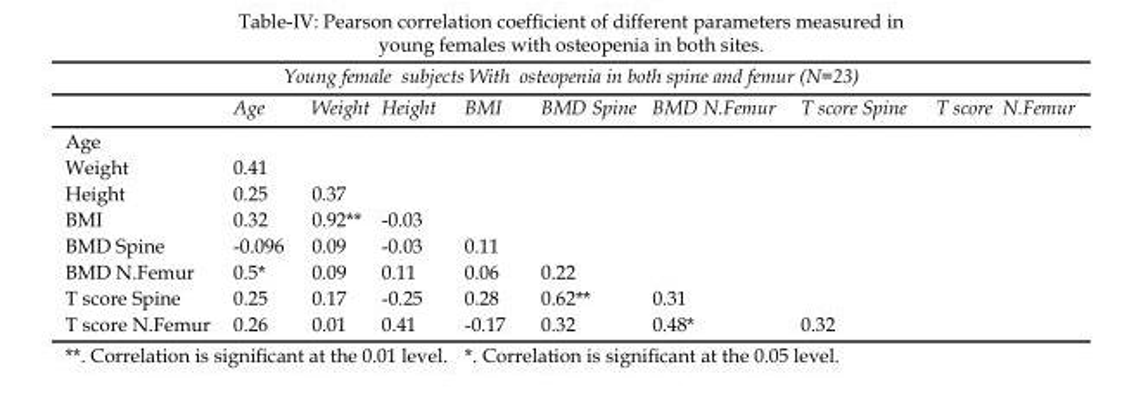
<table><thead><tr><td colspan="9">Young female subjects With osteopenia in both spine and femur (N=23)</td></tr><tr><td></td><td>Age</td><td>Weight</td><td>Height</td><td>BMI</td><td>BMD Spine</td><td>BMD N.Femur</td><td>T score Spine</td><td>T score N.Femur</td></tr></thead><tbody><tr><td colspan="9">Age</td></tr><tr><td>Weight</td><td>0.41</td><td></td><td></td><td></td><td></td><td></td><td></td><td></td></tr><tr><td>Height</td><td>0.25</td><td>0.37</td><td></td><td></td><td></td><td></td><td></td><td></td></tr><tr><td>BMI</td><td>0.32</td><td>0.92**</td><td>-0.03</td><td></td><td></td><td></td><td></td><td></td></tr><tr><td>BMD Spine</td><td>-0.096</td><td>0.09</td><td>-0.03</td><td>0.11</td><td></td><td></td><td></td><td></td></tr><tr><td>BMD N.Femur</td><td>0.5*</td><td>0.09</td><td>0.11</td><td>0.06</td><td>0.22</td><td></td><td></td><td></td></tr><tr><td>T score Spine</td><td>0.25</td><td>0.17</td><td>-0.25</td><td>0.28</td><td>0.62**</td><td>0.31</td><td></td><td></td></tr><tr><td>T score N.Femur</td><td>0.26</td><td>0.01</td><td>0.41</td><td>-0.17</td><td>0.32</td><td>0.48*</td><td>0.32</td><td></td></tr></tbody></table>